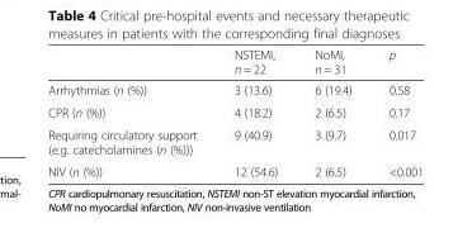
<table><thead><tr><td></td><td>NSTEMI, n = 22</td><td>NoMI, n = 31</td><td>p</td></tr></thead><tbody><tr><td>Arrhythmias (n (%))</td><td>3 (13.6)</td><td>6 (19.4)</td><td>0.58</td></tr><tr><td>CPR (n (%))</td><td>4 (18.2)</td><td>2 (6.5)</td><td>0.17</td></tr><tr><td>Requiring circulatory support (e.g. catecholamines (n (%)))</td><td>9 (40.9)</td><td>3 (9.7)</td><td>0.017</td></tr><tr><td>NIV (n (%))</td><td>12 (54.6)</td><td>2 (6.5)</td><td>&lt;0.001</td></tr></tbody></table>